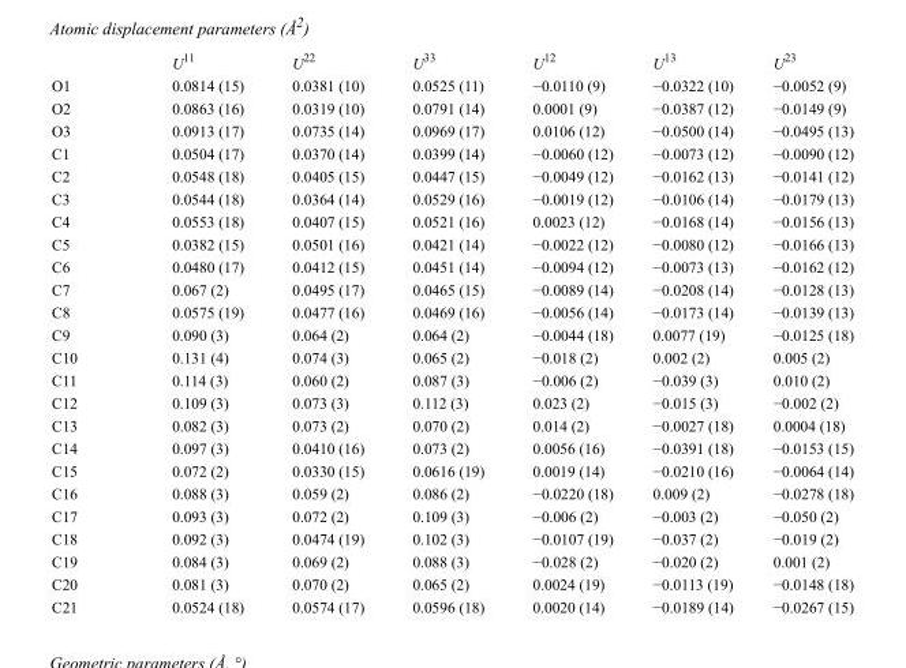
<table><thead><tr><td></td><td>U<sup>11</sup></td><td>U<sup>22</sup></td><td>U<sup>33</sup></td><td>U<sup>12</sup></td><td>U<sup>13</sup></td><td>U<sup>23</sup></td></tr></thead><tbody><tr><td>O1</td><td>0.0814 (15)</td><td>0.0381 (10)</td><td>0.0525 (11)</td><td>−0.0110 (9)</td><td>−0.0322 (10)</td><td>−0.0052 (9)</td></tr><tr><td>O2</td><td>0.0863 (16)</td><td>0.0319 (10)</td><td>0.0791 (14)</td><td>0.0001 (9)</td><td>−0.0387 (12)</td><td>−0.0149 (9)</td></tr><tr><td>O3</td><td>0.0913 (17)</td><td>0.0735 (14)</td><td>0.0969 (17)</td><td>0.0106 (12)</td><td>−0.0500 (14)</td><td>−0.0495 (13)</td></tr><tr><td>C1</td><td>0.0504 (17)</td><td>0.0370 (14)</td><td>0.0399 (14)</td><td>−0.0060 (12)</td><td>−0.0073 (12)</td><td>−0.0090 (12)</td></tr><tr><td>C2</td><td>0.0548 (18)</td><td>0.0405 (15)</td><td>0.0447 (15)</td><td>−0.0049 (12)</td><td>−0.0162 (13)</td><td>−0.0141 (12)</td></tr><tr><td>C3</td><td>0.0544 (18)</td><td>0.0364 (14)</td><td>0.0529 (16)</td><td>−0.0019 (12)</td><td>−0.0106 (14)</td><td>−0.0179 (13)</td></tr><tr><td>C4</td><td>0.0553 (18)</td><td>0.0407 (15)</td><td>0.0521 (16)</td><td>0.0023 (12)</td><td>−0.0168 (14)</td><td>−0.0156 (13)</td></tr><tr><td>C5</td><td>0.0382 (15)</td><td>0.0501 (16)</td><td>0.0421 (14)</td><td>−0.0022 (12)</td><td>−0.0080 (12)</td><td>−0.0166 (13)</td></tr><tr><td>C6</td><td>0.0480 (17)</td><td>0.0412 (15)</td><td>0.0451 (14)</td><td>−0.0094 (12)</td><td>−0.0073 (13)</td><td>−0.0162 (12)</td></tr><tr><td>C7</td><td>0.067 (2)</td><td>0.0495 (17)</td><td>0.0465 (15)</td><td>−0.0089 (14)</td><td>−0.0208 (14)</td><td>−0.0128 (13)</td></tr><tr><td>C8</td><td>0.0575 (19)</td><td>0.0477 (16)</td><td>0.0469 (16)</td><td>−0.0056 (14)</td><td>−0.0173 (14)</td><td>−0.0139 (13)</td></tr><tr><td>C9</td><td>0.090 (3)</td><td>0.064 (2)</td><td>0.064 (2)</td><td>−0.0044 (18)</td><td>0.0077 (19)</td><td>−0.0125 (18)</td></tr><tr><td>C10</td><td>0.131 (4)</td><td>0.074 (3)</td><td>0.065 (2)</td><td>−0.018 (2)</td><td>0.002 (2)</td><td>0.005 (2)</td></tr><tr><td>C11</td><td>0.114 (3)</td><td>0.060 (2)</td><td>0.087 (3)</td><td>−0.006 (2)</td><td>−0.039 (3)</td><td>0.010 (2)</td></tr><tr><td>C12</td><td>0.109 (3)</td><td>0.073 (3)</td><td>0.112 (3)</td><td>0.023 (2)</td><td>−0.015 (3)</td><td>−0.002 (2)</td></tr><tr><td>C13</td><td>0.082 (3)</td><td>0.073 (2)</td><td>0.070 (2)</td><td>0.014 (2)</td><td>−0.0027 (18)</td><td>0.0004 (18)</td></tr><tr><td>C14</td><td>0.097 (3)</td><td>0.0410 (16)</td><td>0.073 (2)</td><td>0.0056 (16)</td><td>−0.0391 (18)</td><td>−0.0153 (15)</td></tr><tr><td>C15</td><td>0.072 (2)</td><td>0.0330 (15)</td><td>0.0616 (19)</td><td>0.0019 (14)</td><td>−0.0210 (16)</td><td>−0.0064 (14)</td></tr><tr><td>C16</td><td>0.088 (3)</td><td>0.059 (2)</td><td>0.086 (2)</td><td>−0.0220 (18)</td><td>0.009 (2)</td><td>−0.0278 (18)</td></tr><tr><td>C17</td><td>0.093 (3)</td><td>0.072 (2)</td><td>0.109 (3)</td><td>−0.006 (2)</td><td>−0.003 (2)</td><td>−0.050 (2)</td></tr><tr><td>C18</td><td>0.092 (3)</td><td>0.0474 (19)</td><td>0.102 (3)</td><td>−0.0107 (19)</td><td>−0.037 (2)</td><td>−0.019 (2)</td></tr><tr><td>C19</td><td>0.084 (3)</td><td>0.069 (2)</td><td>0.088 (3)</td><td>−0.028 (2)</td><td>−0.020 (2)</td><td>0.001 (2)</td></tr><tr><td>C20</td><td>0.081 (3)</td><td>0.070 (2)</td><td>0.065 (2)</td><td>0.0024 (19)</td><td>−0.0113 (19)</td><td>−0.0148 (18)</td></tr><tr><td>C21</td><td>0.0524 (18)</td><td>0.0574 (17)</td><td>0.0596 (18)</td><td>0.0020 (14)</td><td>−0.0189 (14)</td><td>−0.0267 (15)</td></tr></tbody></table>